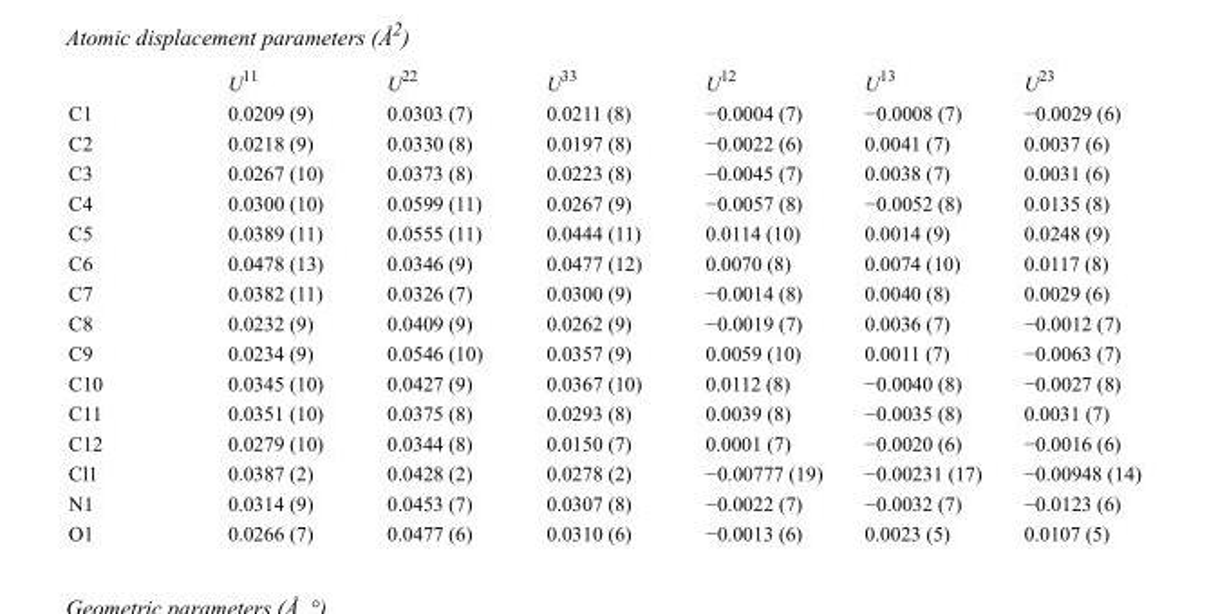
<table><thead><tr><td></td><td>U<sup>11</sup></td><td>U<sup>22</sup></td><td>U<sup>33</sup></td><td>U<sup>12</sup></td><td>U<sup>13</sup></td><td>U<sup>23</sup></td></tr></thead><tbody><tr><td>C1</td><td>0.0209 (9)</td><td>0.0303 (7)</td><td>0.0211 (8)</td><td>−0.0004 (7)</td><td>−0.0008 (7)</td><td>−0.0029 (6)</td></tr><tr><td>C2</td><td>0.0218 (9)</td><td>0.0330 (8)</td><td>0.0197 (8)</td><td>−0.0022 (6)</td><td>0.0041 (7)</td><td>0.0037 (6)</td></tr><tr><td>C3</td><td>0.0267 (10)</td><td>0.0373 (8)</td><td>0.0223 (8)</td><td>−0.0045 (7)</td><td>0.0038 (7)</td><td>0.0031 (6)</td></tr><tr><td>C4</td><td>0.0300 (10)</td><td>0.0599 (11)</td><td>0.0267 (9)</td><td>−0.0057 (8)</td><td>−0.0052 (8)</td><td>0.0135 (8)</td></tr><tr><td>C5</td><td>0.0389 (11)</td><td>0.0555 (11)</td><td>0.0444 (11)</td><td>0.0114 (10)</td><td>0.0014 (9)</td><td>0.0248 (9)</td></tr><tr><td>C6</td><td>0.0478 (13)</td><td>0.0346 (9)</td><td>0.0477 (12)</td><td>0.0070 (8)</td><td>0.0074 (10)</td><td>0.0117 (8)</td></tr><tr><td>C7</td><td>0.0382 (11)</td><td>0.0326 (7)</td><td>0.0300 (9)</td><td>−0.0014 (8)</td><td>0.0040 (8)</td><td>0.0029 (6)</td></tr><tr><td>C8</td><td>0.0232 (9)</td><td>0.0409 (9)</td><td>0.0262 (9)</td><td>−0.0019 (7)</td><td>0.0036 (7)</td><td>−0.0012 (7)</td></tr><tr><td>C9</td><td>0.0234 (9)</td><td>0.0546 (10)</td><td>0.0357 (9)</td><td>0.0059 (10)</td><td>0.0011 (7)</td><td>−0.0063 (7)</td></tr><tr><td>C10</td><td>0.0345 (10)</td><td>0.0427 (9)</td><td>0.0367 (10)</td><td>0.0112 (8)</td><td>−0.0040 (8)</td><td>−0.0027 (8)</td></tr><tr><td>C11</td><td>0.0351 (10)</td><td>0.0375 (8)</td><td>0.0293 (8)</td><td>0.0039 (8)</td><td>−0.0035 (8)</td><td>0.0031 (7)</td></tr><tr><td>C12</td><td>0.0279 (10)</td><td>0.0344 (8)</td><td>0.0150 (7)</td><td>0.0001 (7)</td><td>−0.0020 (6)</td><td>−0.0016 (6)</td></tr><tr><td>Cl1</td><td>0.0387 (2)</td><td>0.0428 (2)</td><td>0.0278 (2)</td><td>−0.00777 (19)</td><td>−0.00231 (17)</td><td>−0.00948 (14)</td></tr><tr><td>N1</td><td>0.0314 (9)</td><td>0.0453 (7)</td><td>0.0307 (8)</td><td>−0.0022 (7)</td><td>−0.0032 (7)</td><td>−0.0123 (6)</td></tr><tr><td>O1</td><td>0.0266 (7)</td><td>0.0477 (6)</td><td>0.0310 (6)</td><td>−0.0013 (6)</td><td>0.0023 (5)</td><td>0.0107 (5)</td></tr></tbody></table>